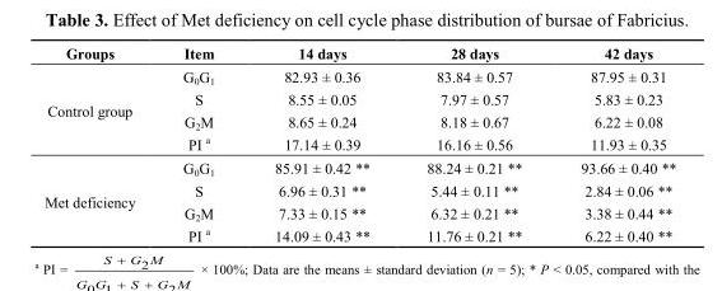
<table><thead><tr><td>Groups</td><td>Item</td><td>14 days</td><td>28 days</td><td>42 days</td></tr></thead><tbody><tr><td rowspan="4">Control group</td><td>G<sub>0</sub>G<sub>1</sub></td><td>82.93 ± 0.36</td><td>83.84 ± 0.57</td><td>87.95 ± 0.31</td></tr><tr><td>S</td><td>8.55 ± 0.05</td><td>7.97 ± 0.57</td><td>5.83 ± 0.23</td></tr><tr><td>G<sub>2</sub>M</td><td>8.65 ± 0.24</td><td>8.18 ± 0.67</td><td>6.22 ± 0.08</td></tr><tr><td>PI <sup>a</sup></td><td>17.14 ± 0.39</td><td>16.16 ± 0.56</td><td>11.93 ± 0.35</td></tr><tr><td rowspan="4">Met deficiency</td><td>G<sub>0</sub>G<sub>1</sub></td><td>85.91 ± 0.42 **</td><td>88.24 ± 0.21 **</td><td>93.66 ± 0.40 **</td></tr><tr><td>S</td><td>6.96 ± 0.31 **</td><td>5.44 ± 0.11 **</td><td>2.84 ± 0.06 **</td></tr><tr><td>G<sub>2</sub>M</td><td>7.33 ± 0.15 **</td><td>6.32 ± 0.21 **</td><td>3.38 ± 0.44 **</td></tr><tr><td>PI <sup>a</sup></td><td>14.09 ± 0.43 **</td><td>11.76 ± 0.21 **</td><td>6.22 ± 0.40 **</td></tr></tbody></table>